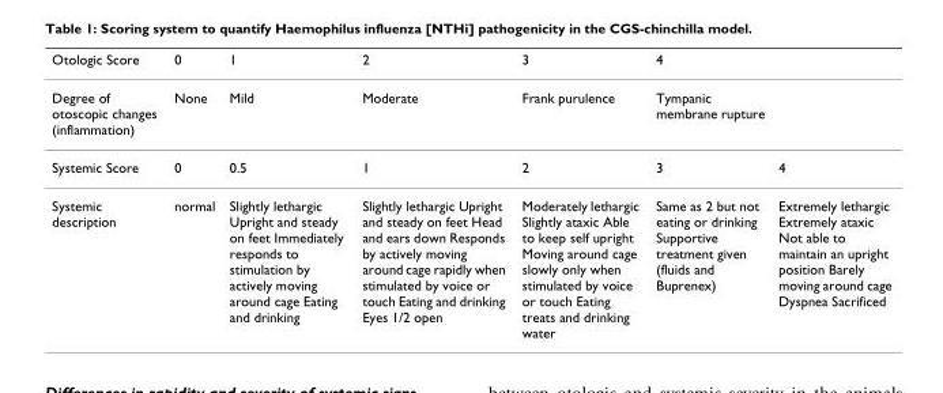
<table><thead><tr><td>Otologic Score</td><td>0</td><td>1</td><td>2</td><td>3</td><td>4</td><td></td></tr></thead><tbody><tr><td>Degree of otoscopic changes (inflammation)</td><td>None</td><td>Mild</td><td>Moderate</td><td>Frank purulence</td><td>Tympanic membrane rupture</td><td></td></tr><tr><td>Systemic Score</td><td>0</td><td>0.5</td><td>1</td><td>2</td><td>3</td><td>4</td></tr><tr><td>Systemic description</td><td>normal</td><td>Slightly lethargic Upright and steady on feet Immediately responds to stimulation by actively moving around cage Eating and drinking</td><td>Slightly lethargic Upright and steady on feet Head and ears down Responds by actively moving around cage rapidly when stimulated by voice or touch Eating and drinking Eyes 1/2 open</td><td>Moderately lethargic Slightly ataxic Able to keep self upright Moving around cage slowly only when stimulated by voice or touch Eating treats and drinking water</td><td>Same as 2 but not eating or drinking Supportive treatment given (fluids and Buprenex)</td><td>Extremely lethargic Extremely ataxic Not able to maintain an upright position Barely moving around cage Dyspnea Sacrificed</td></tr></tbody></table>